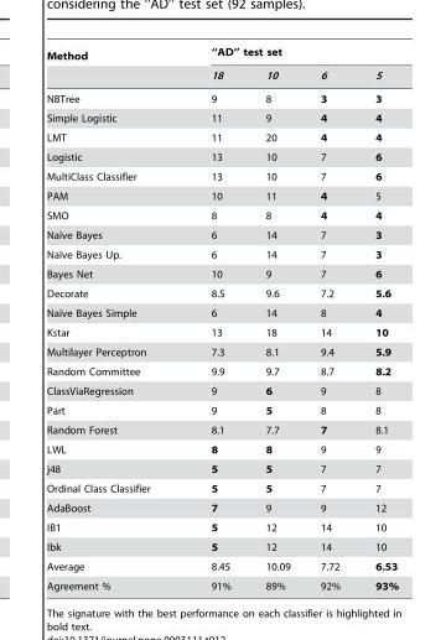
<table><thead><tr><td rowspan="2">Method</td><td colspan="4">‘‘AD’’ test set</td></tr><tr><td>18</td><td>10</td><td>6</td><td>5</td></tr></thead><tbody><tr><td>NBTree</td><td>9</td><td>8</td><td>3</td><td>3</td></tr><tr><td>Simple Logistic</td><td>11</td><td>9</td><td>4</td><td>4</td></tr><tr><td>LMT</td><td>11</td><td>20</td><td>4</td><td>4</td></tr><tr><td>Logistic</td><td>13</td><td>10</td><td>7</td><td>6</td></tr><tr><td>MultiClass Classifier</td><td>13</td><td>10</td><td>7</td><td>6</td></tr><tr><td>PAM</td><td>10</td><td>11</td><td>4</td><td>5</td></tr><tr><td>SMO</td><td>8</td><td>8</td><td>4</td><td>4</td></tr><tr><td>Naı¨ve Bayes</td><td>6</td><td>14</td><td>7</td><td>3</td></tr><tr><td>Naı¨ve Bayes Up.</td><td>6</td><td>14</td><td>7</td><td>3</td></tr><tr><td>Bayes Net</td><td>10</td><td>9</td><td>7</td><td>6</td></tr><tr><td>Decorate</td><td>8.5</td><td>9.6</td><td>7.2</td><td>5.6</td></tr><tr><td>Naı¨ve Bayes Simple</td><td>6</td><td>14</td><td>8</td><td>4</td></tr><tr><td>Kstar</td><td>13</td><td>18</td><td>14</td><td>10</td></tr><tr><td>Multilayer Perceptron</td><td>7.3</td><td>8.1</td><td>9.4</td><td>5.9</td></tr><tr><td>Random Committee</td><td>9.9</td><td>9.7</td><td>8.7</td><td>8.2</td></tr><tr><td>ClassViaRegression</td><td>9</td><td>6</td><td>9</td><td>8</td></tr><tr><td>Part</td><td>9</td><td>5</td><td>8</td><td>8</td></tr><tr><td>Random Forest</td><td>8.1</td><td>7.7</td><td>7</td><td>8.1</td></tr><tr><td>LWL</td><td>8</td><td>8</td><td>9</td><td>9</td></tr><tr><td>j48</td><td>5</td><td>5</td><td>7</td><td>7</td></tr><tr><td>Ordinal Class Classifier</td><td>5</td><td>5</td><td>7</td><td>7</td></tr><tr><td>AdaBoost</td><td>7</td><td>9</td><td>9</td><td>12</td></tr><tr><td>IB1</td><td>5</td><td>12</td><td>14</td><td>10</td></tr><tr><td>Ibk</td><td>5</td><td>12</td><td>14</td><td>10</td></tr><tr><td>Average</td><td>8.45</td><td>10.09</td><td>7.72</td><td>6.53</td></tr><tr><td>Agreement %</td><td>91%</td><td>89%</td><td>92%</td><td>93%</td></tr></tbody></table>